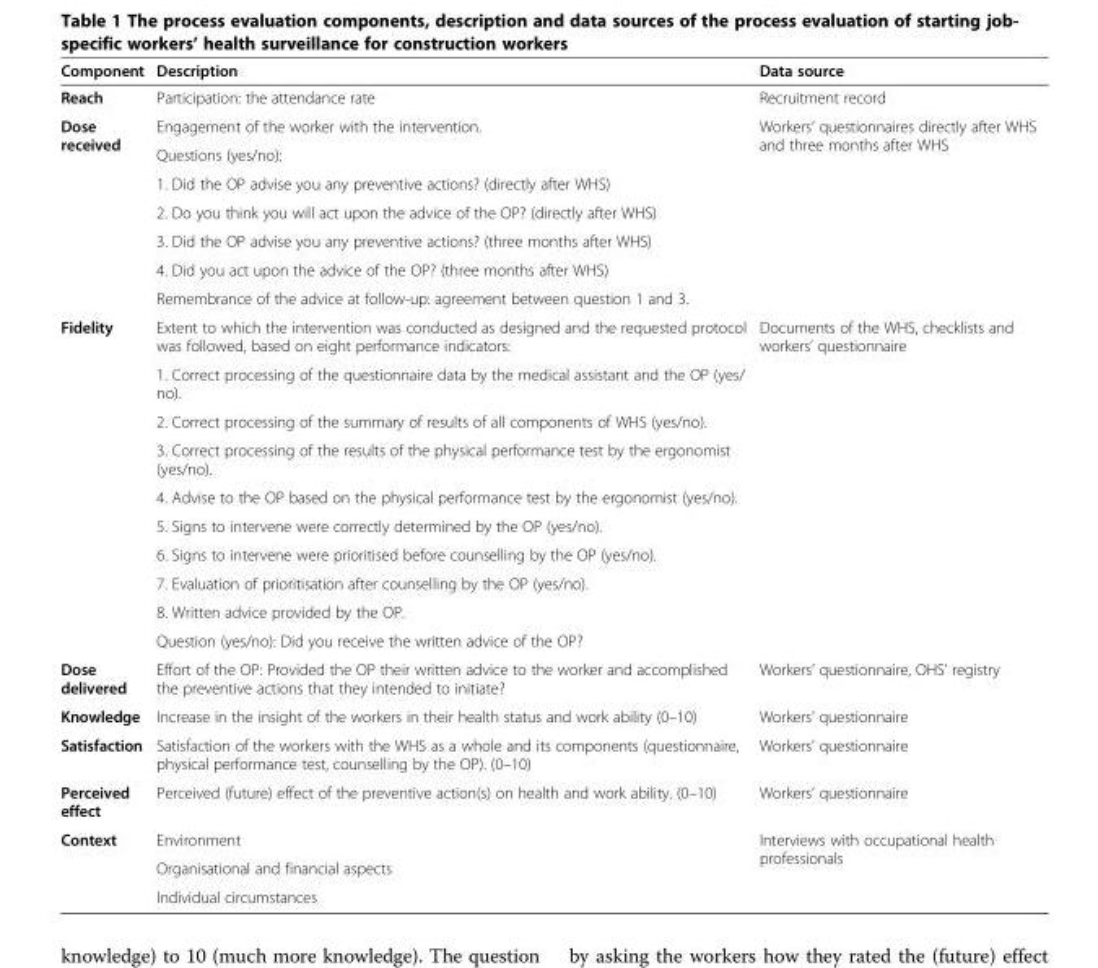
<table><thead><tr><td>Component</td><td>Description</td><td>Data source</td></tr></thead><tbody><tr><td>Reach</td><td>Participation: the attendance rate</td><td>Recruitment record</td></tr><tr><td rowspan="7">Dose received</td><td>Engagement of the worker with the intervention.</td><td rowspan="7">Workers’ questionnaires directly after WHS and three months after WHS</td></tr><tr><td>Questions (yes/no):</td></tr><tr><td>1. Did the OP advise you any preventive actions? (directly after WHS)</td></tr><tr><td>2. Do you think you will act upon the advice of the OP? (directly after WHS)</td></tr><tr><td>3. Did the OP advise you any preventive actions? (three months after WHS)</td></tr><tr><td>4. Did you act upon the advice of the OP? (three months after WHS)</td></tr><tr><td>Remembrance of the advice at follow-up: agreement between question 1 and 3.</td></tr><tr><td rowspan="10">Fidelity</td><td>Extent to which the intervention was conducted as designed and the requested protocol was followed, based on eight performance indicators:</td><td rowspan="10">Documents of the WHS, checklists and workers’ questionnaire</td></tr><tr><td>1. Correct processing of the questionnaire data by the medical assistant and the OP (yes/ no).</td></tr><tr><td>2. Correct processing of the summary of results of all components of WHS (yes/no).</td></tr><tr><td>3. Correct processing of the results of the physical performance test by the ergonomist (yes/no).</td></tr><tr><td>4. Advise to the OP based on the physical performance test by the ergonomist (yes/no).</td></tr><tr><td>5. Signs to intervene were correctly determined by the OP (yes/no).</td></tr><tr><td>6. Signs to intervene were prioritised before counselling by the OP (yes/no).</td></tr><tr><td>7. Evaluation of prioritisation after counselling by the OP (yes/no).</td></tr><tr><td>8. Written advice provided by the OP.</td></tr><tr><td>Question (yes/no): Did you receive the written advice of the OP?</td></tr><tr><td>Dose delivered</td><td>Effort of the OP: Provided the OP their written advice to the worker and accomplished the preventive actions that they intended to initiate?</td><td>Workers’ questionnaire, OHS’ registry</td></tr><tr><td>Knowledge</td><td>Increase in the insight of the workers in their health status and work ability (0–10)</td><td>Workers’ questionnaire</td></tr><tr><td>Satisfaction</td><td>Satisfaction of the workers with the WHS as a whole and its components (questionnaire, physical performance test, counselling by the OP). (0–10)</td><td>Workers’ questionnaire</td></tr><tr><td>Perceived effect</td><td>Perceived (future) effect of the preventive action(s) on health and work ability. (0–10)</td><td>Workers’ questionnaire</td></tr><tr><td rowspan="3">Context</td><td>Environment</td><td rowspan="2">Interviews with occupational health professionals</td></tr><tr><td>Organisational and financial aspects</td></tr><tr><td>Individual circumstances</td><td></td></tr></tbody></table>